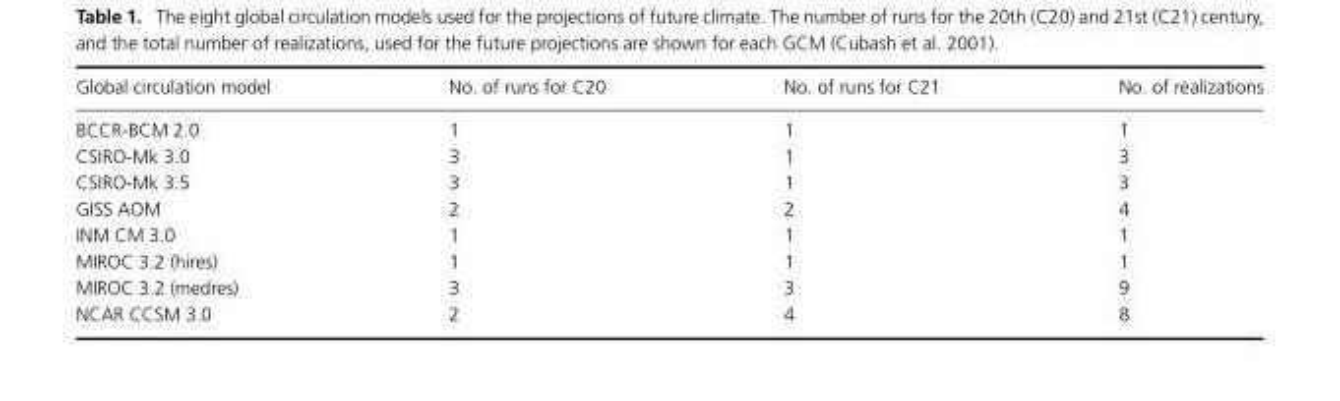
<table><thead><tr><td>Global circulation model</td><td>No. of runs for C20</td><td>No. of runs for C21</td><td>No. of realizations</td></tr></thead><tbody><tr><td>BCCR-BCM 2.0</td><td>1</td><td>1</td><td>1</td></tr><tr><td>CSIRO-Mk 3.0</td><td>3</td><td>1</td><td>3</td></tr><tr><td>CSIRO-Mk 3.5</td><td>3</td><td>1</td><td>3</td></tr><tr><td>GISS AOM</td><td>2</td><td>2</td><td>4</td></tr><tr><td>INM CM 3.0</td><td>1</td><td>1</td><td>1</td></tr><tr><td>MIROC 3.2 (hires)</td><td>1</td><td>1</td><td>1</td></tr><tr><td>MIROC 3.2 (medres)</td><td>3</td><td>3</td><td>9</td></tr><tr><td>NCAR CCSM 3.0</td><td>2</td><td>4</td><td>8</td></tr></tbody></table>